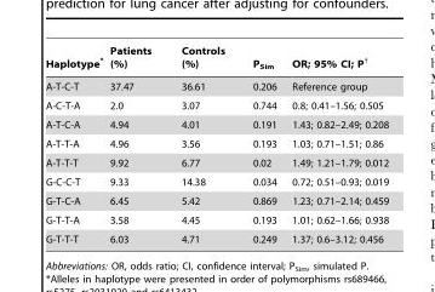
<table><thead><tr><td>Haplotype*</td><td>Patients (%)</td><td>Controls (%)</td><td>P<sub>Sim</sub></td><td>OR; 95% CI; P†</td></tr></thead><tbody><tr><td>A-T-C-T</td><td>37.47</td><td>36.61</td><td>0.206</td><td>Reference group</td></tr><tr><td>A-C-T-A</td><td>2.0</td><td>3.07</td><td>0.744</td><td>0.8; 0.41–1.56; 0.505</td></tr><tr><td>A-T-C-A</td><td>4.94</td><td>4.01</td><td>0.191</td><td>1.43; 0.82–2.49; 0.208</td></tr><tr><td>A-T-T-A</td><td>4.96</td><td>3.56</td><td>0.193</td><td>1.03; 0.71–1.51; 0.86</td></tr><tr><td>A-T-T-T</td><td>9.92</td><td>6.77</td><td>0.02</td><td>1.49; 1.21–1.79; 0.012</td></tr><tr><td>G-C-C-T</td><td>9.33</td><td>14.38</td><td>0.034</td><td>0.72; 0.51–0.93; 0.019</td></tr><tr><td>G-T-C-A</td><td>6.45</td><td>5.42</td><td>0.869</td><td>1.23; 0.71–2.14; 0.459</td></tr><tr><td>G-T-T-A</td><td>3.58</td><td>4.45</td><td>0.193</td><td>1.01; 0.62–1.66; 0.938</td></tr><tr><td>G-T-T-T</td><td>6.03</td><td>4.71</td><td>0.249</td><td>1.37; 0.6–3.12; 0.456</td></tr></tbody></table>